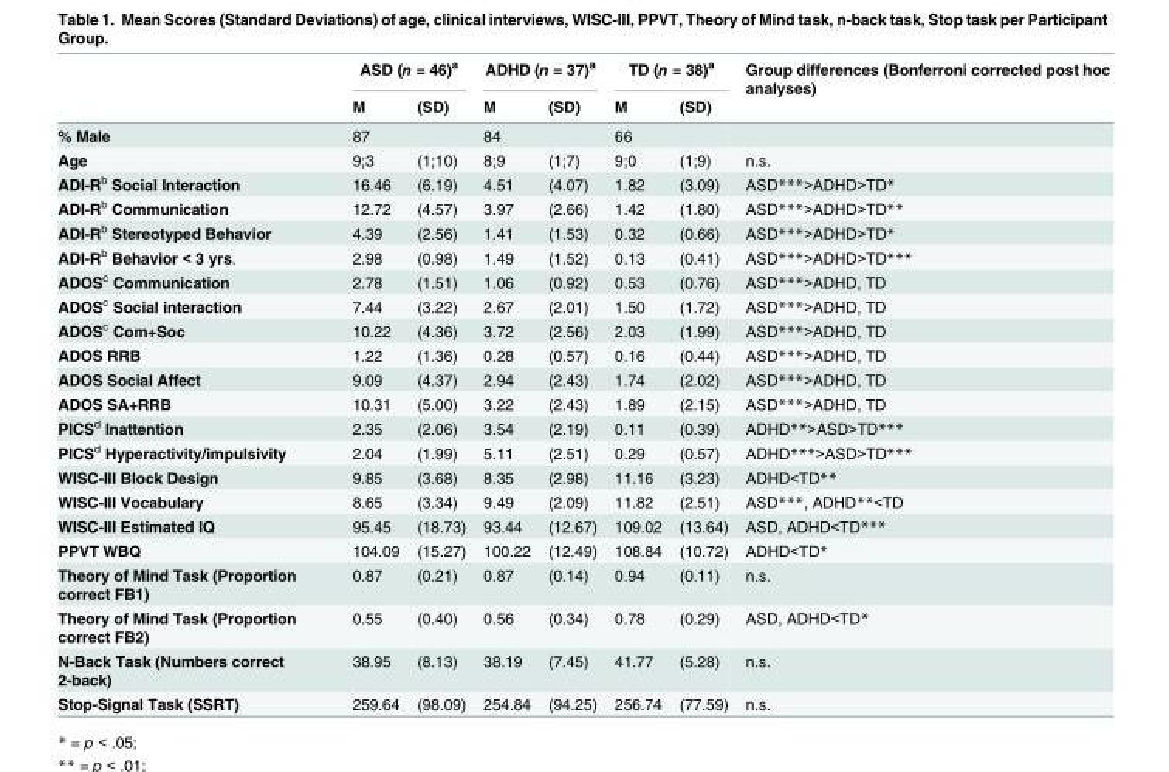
<table><thead><tr><td rowspan="2"></td><td colspan="2">ASD (n = 46)<sup>a</sup></td><td colspan="2">ADHD (n = 37)<sup>a</sup></td><td colspan="2">TD (n = 38)<sup>a</sup></td><td rowspan="2">Group differences (Bonferroni corrected post hoc analyses)</td></tr><tr><td>M</td><td>(SD)</td><td>M</td><td>(SD)</td><td>M</td><td>(SD)</td></tr></thead><tbody><tr><td>% Male</td><td>87</td><td></td><td>84</td><td></td><td>66</td><td></td><td></td></tr><tr><td>Age</td><td>9;3</td><td>(1;10)</td><td>8;9</td><td>(1;7)</td><td>9;0</td><td>(1;9)</td><td>n.s.</td></tr><tr><td>ADI-R<sup>b</sup> Social Interaction</td><td>16.46</td><td>(6.19)</td><td>4.51</td><td>(4.07)</td><td>1.82</td><td>(3.09)</td><td>ASD***&gt;ADHD&gt;TD*</td></tr><tr><td>ADI-R<sup>b</sup> Communication</td><td>12.72</td><td>(4.57)</td><td>3.97</td><td>(2.66)</td><td>1.42</td><td>(1.80)</td><td>ASD***&gt;ADHD&gt;TD**</td></tr><tr><td>ADI-R<sup>b</sup> Stereotyped Behavior</td><td>4.39</td><td>(2.56)</td><td>1.41</td><td>(1.53)</td><td>0.32</td><td>(0.66)</td><td>ASD***&gt;ADHD&gt;TD*</td></tr><tr><td>ADI-R<sup>b</sup> Behavior &lt; 3 yrs.</td><td>2.98</td><td>(0.98)</td><td>1.49</td><td>(1.52)</td><td>0.13</td><td>(0.41)</td><td>ASD***&gt;ADHD&gt;TD***</td></tr><tr><td>ADOS<sup>c</sup> Communication</td><td>2.78</td><td>(1.51)</td><td>1.06</td><td>(0.92)</td><td>0.53</td><td>(0.76)</td><td>ASD***&gt;ADHD, TD</td></tr><tr><td>ADOS<sup>c</sup> Social interaction</td><td>7.44</td><td>(3.22)</td><td>2.67</td><td>(2.01)</td><td>1.50</td><td>(1.72)</td><td>ASD***&gt;ADHD, TD</td></tr><tr><td>ADOS<sup>c</sup> Com+Soc</td><td>10.22</td><td>(4.36)</td><td>3.72</td><td>(2.56)</td><td>2.03</td><td>(1.99)</td><td>ASD***&gt;ADHD, TD</td></tr><tr><td>ADOS RRB</td><td>1.22</td><td>(1.36)</td><td>0.28</td><td>(0.57)</td><td>0.16</td><td>(0.44)</td><td>ASD***&gt;ADHD, TD</td></tr><tr><td>ADOS Social Affect</td><td>9.09</td><td>(4.37)</td><td>2.94</td><td>(2.43)</td><td>1.74</td><td>(2.02)</td><td>ASD***&gt;ADHD, TD</td></tr><tr><td>ADOS SA+RRB</td><td>10.31</td><td>(5.00)</td><td>3.22</td><td>(2.43)</td><td>1.89</td><td>(2.15)</td><td>ASD***&gt;ADHD, TD</td></tr><tr><td>PICS<sup>d</sup> Inattention</td><td>2.35</td><td>(2.06)</td><td>3.54</td><td>(2.19)</td><td>0.11</td><td>(0.39)</td><td>ADHD**&gt;ASD&gt;TD***</td></tr><tr><td>PICS<sup>d</sup> Hyperactivity/impulsivity</td><td>2.04</td><td>(1.99)</td><td>5.11</td><td>(2.51)</td><td>0.29</td><td>(0.57)</td><td>ADHD***&gt;ASD&gt;TD***</td></tr><tr><td>WISC-III Block Design</td><td>9.85</td><td>(3.68)</td><td>8.35</td><td>(2.98)</td><td>11.16</td><td>(3.23)</td><td>ADHD&lt;TD**</td></tr><tr><td>WISC-III Vocabulary</td><td>8.65</td><td>(3.34)</td><td>9.49</td><td>(2.09)</td><td>11.82</td><td>(2.51)</td><td>ASD***, ADHD**&lt;TD</td></tr><tr><td>WISC-III Estimated IQ</td><td>95.45</td><td>(18.73)</td><td>93.44</td><td>(12.67)</td><td>109.02</td><td>(13.64)</td><td>ASD, ADHD&lt;TD***</td></tr><tr><td>PPVT WBQ</td><td>104.09</td><td>(15.27)</td><td>100.22</td><td>(12.49)</td><td>108.84</td><td>(10.72)</td><td>ADHD&lt;TD*</td></tr><tr><td>Theory of Mind Task (Proportion correct FB1)</td><td>0.87</td><td>(0.21)</td><td>0.87</td><td>(0.14)</td><td>0.94</td><td>(0.11)</td><td>n.s.</td></tr><tr><td>Theory of Mind Task (Proportion correct FB2)</td><td>0.55</td><td>(0.40)</td><td>0.56</td><td>(0.34)</td><td>0.78</td><td>(0.29)</td><td>ASD, ADHD&lt;TD*</td></tr><tr><td>N-Back Task (Numbers correct 2-back)</td><td>38.95</td><td>(8.13)</td><td>38.19</td><td>(7.45)</td><td>41.77</td><td>(5.28)</td><td>n.s.</td></tr><tr><td>Stop-Signal Task (SSRT)</td><td>259.64</td><td>(98.09)</td><td>254.84</td><td>(94.25)</td><td>256.74</td><td>(77.59)</td><td>n.s.</td></tr></tbody></table>